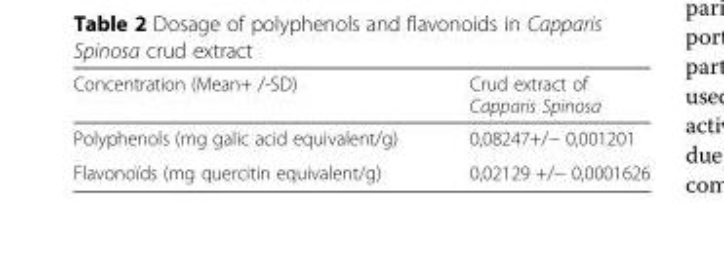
<table><thead><tr><td>Concentration (Mean+ /-SD)</td><td>Crud extract of Capparis Spinosa</td></tr></thead><tbody><tr><td>Polyphenols (mg galic acid equivalent/g)</td><td>0,08247+/− 0,001201</td></tr><tr><td>Flavonoïds (mg quercitin equivalent/g)</td><td>0,02129 +/− 0,0001626</td></tr></tbody></table>